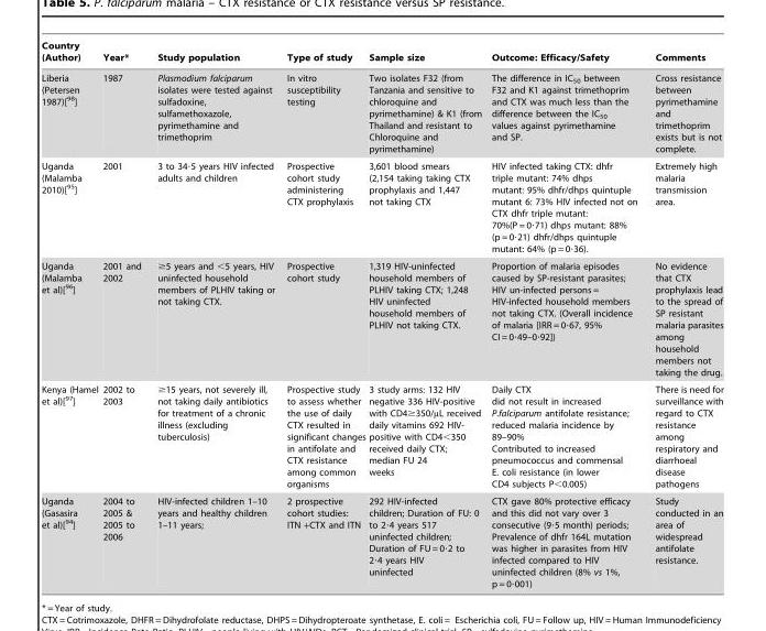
<table><thead><tr><td>Country (Author)</td><td>Year*</td><td>Study population</td><td>Type of study</td><td>Sample size</td><td>Outcome: Efficacy/Safety</td><td>Comments</td></tr></thead><tbody><tr><td>Liberia (Petersen 1987)[<sup>98</sup>]</td><td>1987</td><td>Plasmodium falciparum isolates were tested against sulfadoxine, sulfamethoxazole, pyrimethamine and trimethoprim</td><td>In vitro susceptibility testing</td><td>Two isolates F32 (from Tanzania and sensitive to chloroquine and pyrimethamine) &amp; K1 (from Thailand and resistant to Chloroquine and pyrimethamine)</td><td>The difference in IC<sub>50</sub> between F32 and K1 against trimethoprim and CTX was much less than the difference between the IC<sub>50</sub> values against pyrimethamine and SP.</td><td>Cross resistance between pyrimethamine and trimethoprim exists but is not complete.</td></tr><tr><td>Uganda (Malamba 2010)[<sup>95</sup>]</td><td>2001</td><td>3 to 34·5 years HIV infected adults and children</td><td>Prospective cohort study administering CTX prophylaxis</td><td>3,601 blood smears (2,154 taking taking CTX prophylaxis and 1,447 not taking CTX</td><td>HIV infected taking CTX: dhfr triple mutant: 74% dhps mutant: 95% dhfr/dhps quintuple mutant 6: 73% HIV infected not on CTX dhfr triple mutant: 70%(P = 0·71) dhps mutant: 88% (p = 0·21) dhfr/dhps quintuple mutant: 64% (p = 0·36).</td><td>Extremely high malaria transmission area.</td></tr><tr><td>Uganda (Malamba et al)[<sup>96</sup>]</td><td>2001 and 2002</td><td>≥5 years and &lt;5 years, HIV uninfected household members of PLHIV taking or not taking CTX.</td><td>Prospective cohort study</td><td>1,319 HIV-uninfected household members of PLHIV taking CTX; 1,248 HIV uninfected household members of PLHIV not taking CTX.</td><td>Proportion of malaria episodes caused by SP-resistant parasites; HIV un-infected persons = HIV-infected household members not taking CTX. (Overall incidence of malaria [IRR = 0·67, 95% CI = 0·49–0·92])</td><td>No evidence that CTX prophylaxis lead to the spread of SP resistant malaria parasites among household members not taking the drug.</td></tr><tr><td>Kenya (Hamel et al)[<sup>97</sup>]</td><td>2002 to 2003</td><td>≥15 years, not severely ill, not taking daily antibiotics for treatment of a chronic illness (excluding tuberculosis)</td><td>Prospective study to assess whether the use of daily CTX resulted in significant changes in antifolate and CTX resistance among common organisms</td><td>3 study arms: 132 HIV negative 336 HIV-positive with CD4≥350/µL received daily vitamins 692 HIV- positive with CD4&lt;350 received daily CTX; median FU 24 weeks</td><td>Daily CTX did not result in increased P.falciparum antifolate resistance; reduced malaria incidence by 89–90% Contributed to increased pneumococcus and commensal E. coli resistance (in lower CD4 subjects P&lt;0.005)</td><td>There is need for surveillance with regard to CTX resistance among respiratory and diarrhoeal disease pathogens</td></tr><tr><td>Uganda (Gasasira et al)[<sup>94</sup>]</td><td>2004 to 2005 &amp; 2005 to 2006</td><td>HIV-infected children 1–10 years and healthy children 1–11 years;</td><td>2 prospective cohort studies: ITN +CTX and ITN</td><td>292 HIV-infected children; Duration of FU: 0 to 2·4 years 517 uninfected children; Duration of FU = 0·2 to 2·4 years HIV uninfected</td><td>CTX gave 80% protective efficacy and this did not vary over 3 consecutive (9·5 month) periods; Prevalence of dhfr 164L mutation was higher in parasites from HIV infected compared to HIV uninfected children (8% vs 1%, p = 0·001)</td><td>Study conducted in an area of widespread antifolate resistance.</td></tr></tbody></table>